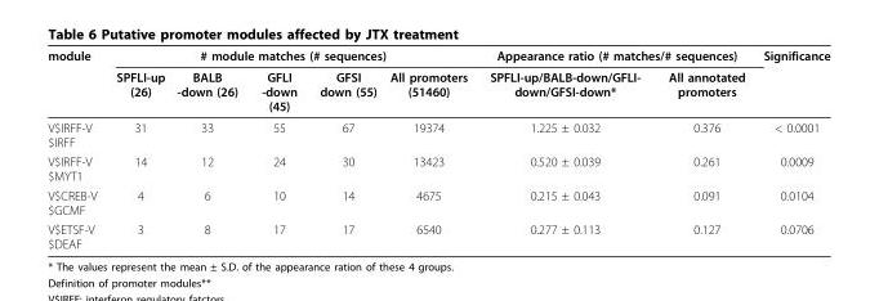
<table><thead><tr><td rowspan="2">module</td><td colspan="5"># module matches (# sequences)</td><td colspan="2">Appearance ratio (# matches/# sequences)</td><td rowspan="2">Significance</td></tr><tr><td>SPFLI-up (26)</td><td>BALB -down (26)</td><td>GFLI -down (45)</td><td>GFSI down (55)</td><td>All promoters (51460)</td><td>SPFLI-up/BALB-down/GFLI- down/GFSI-down*</td><td>All annotated promoters</td></tr></thead><tbody><tr><td>V$IRFF-V $IRFF</td><td>31</td><td>33</td><td>55</td><td>67</td><td>19374</td><td>1.225 ± 0.032</td><td>0.376</td><td>&lt; 0.0001</td></tr><tr><td>V$IRFF-V $MYT1</td><td>14</td><td>12</td><td>24</td><td>30</td><td>13423</td><td>0.520 ± 0.039</td><td>0.261</td><td>0.0009</td></tr><tr><td>V$CREB-V $GCMF</td><td>4</td><td>6</td><td>10</td><td>14</td><td>4675</td><td>0.215 ± 0.043</td><td>0.091</td><td>0.0104</td></tr><tr><td>V$ETSF-V $DEAF</td><td>3</td><td>8</td><td>17</td><td>17</td><td>6540</td><td>0.277 ± 0.113</td><td>0.127</td><td>0.0706</td></tr></tbody></table>